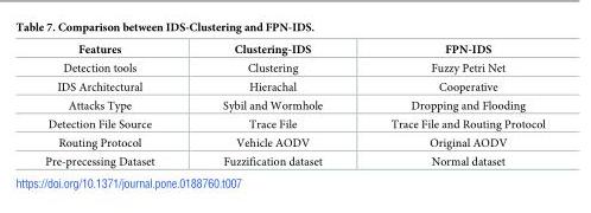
<table><thead><tr><td>Features</td><td>Clustering-IDS</td><td>FPN-IDS</td></tr></thead><tbody><tr><td>Detection tools</td><td>Clustering</td><td>Fuzzy Petri Net</td></tr><tr><td>IDS Architectural</td><td>Hierachal</td><td>Cooperative</td></tr><tr><td>Attacks Type</td><td>Sybil and Wormhole</td><td>Dropping and Flooding</td></tr><tr><td>Detection File Source</td><td>Trace File</td><td>Trace File and Routing Protocol</td></tr><tr><td>Routing Protocol</td><td>Vehicle AODV</td><td>Original AODV</td></tr><tr><td>Pre-precessing Dataset</td><td>Fuzzification dataset</td><td>Normal dataset</td></tr></tbody></table>